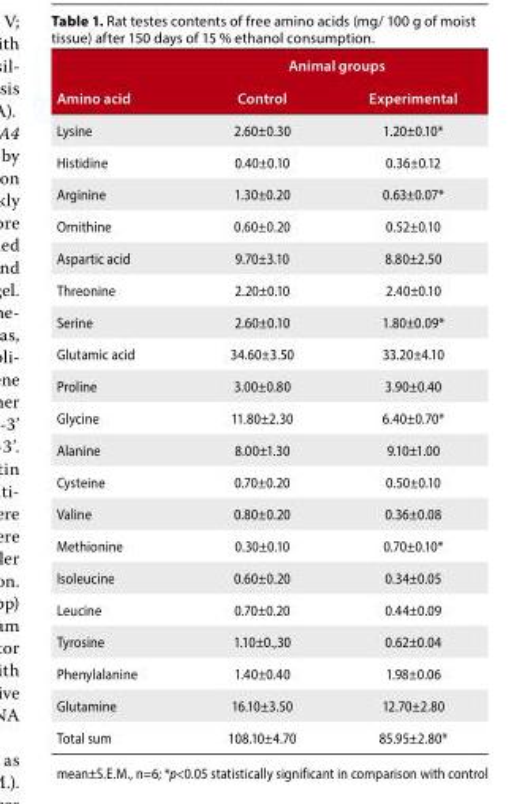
<table><thead><tr><td rowspan="2">Amino acid</td><td colspan="2">Animal groups</td></tr><tr><td>Control</td><td>Experimental</td></tr></thead><tbody><tr><td>Lysine</td><td>2.60±0.30</td><td>1.20±0.10*</td></tr><tr><td>Histidine</td><td>0.40±0.10</td><td>0.36±0.12</td></tr><tr><td>Arginine</td><td>1.30±0.20</td><td>0.63±0.07*</td></tr><tr><td>Ornithine</td><td>0.60±0.20</td><td>0.52±0.10</td></tr><tr><td>Aspartic acid</td><td>9.70±3.10</td><td>8.80±2.50</td></tr><tr><td>Threonine</td><td>2.20±0.10</td><td>2.40±0.10</td></tr><tr><td>Serine</td><td>2.60±0.10</td><td>1.80±0.09*</td></tr><tr><td>Glutamic acid</td><td>34.60±3.50</td><td>33.20±4.10</td></tr><tr><td>Proline</td><td>3.00±0.80</td><td>3.90±0.40</td></tr><tr><td>Glycine</td><td>11.80±2.30</td><td>6.40±0.70*</td></tr><tr><td>Alanine</td><td>8.00±1.30</td><td>9.10±1.00</td></tr><tr><td>Cysteine</td><td>0.70±0.20</td><td>0.50±0.10</td></tr><tr><td>Valine</td><td>0.80±0.20</td><td>0.36±0.08</td></tr><tr><td>Methionine</td><td>0.30±0.10</td><td>0.70±0.10*</td></tr><tr><td>Isoleucine</td><td>0.60±0.20</td><td>0.34±0.05</td></tr><tr><td>Leucine</td><td>0.70±0.20</td><td>0.44±0.09</td></tr><tr><td>Tyrosine</td><td>1.10±0.,30</td><td>0.62±0.04</td></tr><tr><td>Phenylalanine</td><td>1.40±0.40</td><td>1.98±0.06</td></tr><tr><td>Glutamine</td><td>16.10±3.50</td><td>12.70±2.80</td></tr><tr><td>Total sum</td><td>108.10±4.70</td><td>85.95±2.80*</td></tr></tbody></table>